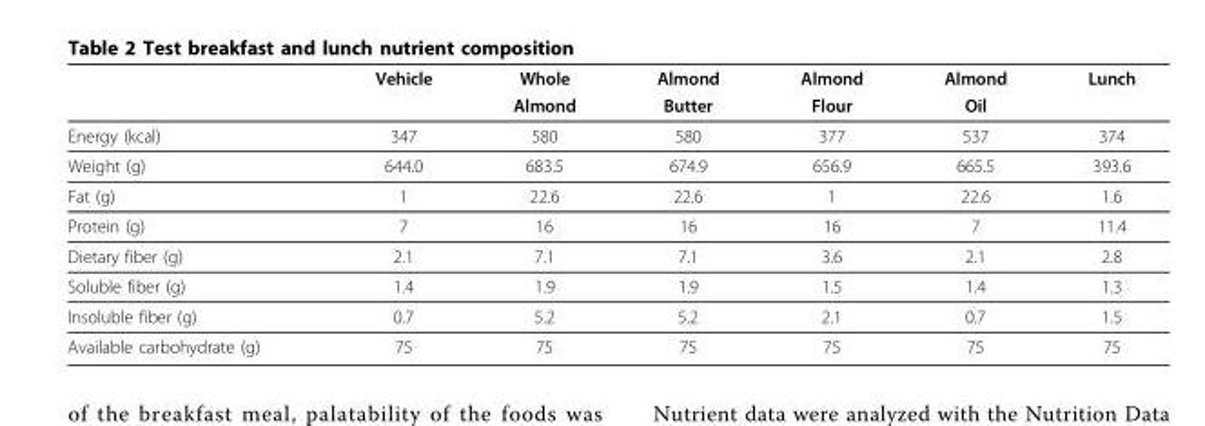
<table><thead><tr><td rowspan="2"></td><td rowspan="2">Vehicle</td><td rowspan="2">Whole Almond</td><td rowspan="2">Almond Butter</td><td rowspan="2">Almond Flour</td><td rowspan="2">Almond Oil</td><td rowspan="2">Lunch</td></tr><tr></tr></thead><tbody><tr><td>Energy (kcal)</td><td>347</td><td>580</td><td>580</td><td>377</td><td>537</td><td>374</td></tr><tr><td>Weight (g)</td><td>644.0</td><td>683.5</td><td>674.9</td><td>656.9</td><td>665.5</td><td>393.6</td></tr><tr><td>Fat (g)</td><td>1</td><td>22.6</td><td>22.6</td><td>1</td><td>22.6</td><td>1.6</td></tr><tr><td>Protein (g)</td><td>7</td><td>16</td><td>16</td><td>16</td><td>7</td><td>11.4</td></tr><tr><td>Dietary fiber (g)</td><td>2.1</td><td>7.1</td><td>7.1</td><td>3.6</td><td>2.1</td><td>2.8</td></tr><tr><td>Soluble fiber (g)</td><td>1.4</td><td>1.9</td><td>1.9</td><td>1.5</td><td>1.4</td><td>1.3</td></tr><tr><td>Insoluble fiber (g)</td><td>0.7</td><td>5.2</td><td>5.2</td><td>2.1</td><td>0.7</td><td>1.5</td></tr><tr><td>Available carbohydrate (g)</td><td>75</td><td>75</td><td>75</td><td>75</td><td>75</td><td>75</td></tr></tbody></table>